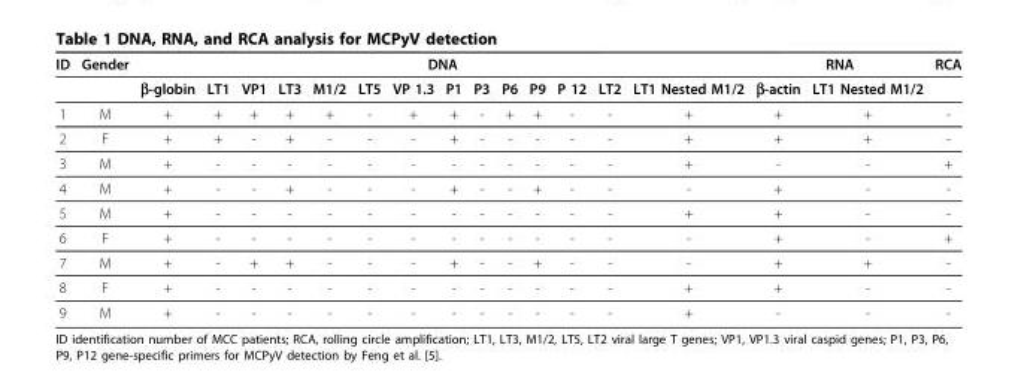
<table><thead><tr><td rowspan="2">ID</td><td rowspan="2">Gender</td><td colspan="14">DNA</td><td colspan="2">RNA</td><td rowspan="2">RCA</td></tr><tr><td>β-globin</td><td>LT1</td><td>VP1</td><td>LT3</td><td>M1/2</td><td>LT5</td><td>VP 1.3</td><td>P1</td><td>P3</td><td>P6</td><td>P9</td><td>P 12</td><td>LT2</td><td>LT1 Nested M1/2</td><td>β-actin</td><td>LT1 Nested M1/2</td></tr></thead><tbody><tr><td>1</td><td>M</td><td>+</td><td>+</td><td>+</td><td>+</td><td>+</td><td>-</td><td>+</td><td>+</td><td>-</td><td>+</td><td>+</td><td>-</td><td>-</td><td>+</td><td>+</td><td>+</td><td>-</td></tr><tr><td>2</td><td>F</td><td>+</td><td>+</td><td>-</td><td>+</td><td>-</td><td>-</td><td>-</td><td>+</td><td>-</td><td>-</td><td>-</td><td>-</td><td>-</td><td>+</td><td>+</td><td>+</td><td>-</td></tr><tr><td>3</td><td>M</td><td>+</td><td>-</td><td>-</td><td>-</td><td>-</td><td>-</td><td>-</td><td>-</td><td>-</td><td>-</td><td>-</td><td>-</td><td>-</td><td>+</td><td>-</td><td>-</td><td>+</td></tr><tr><td>4</td><td>M</td><td>+</td><td>-</td><td>-</td><td>+</td><td>-</td><td>-</td><td>-</td><td>+</td><td>-</td><td>-</td><td>+</td><td>-</td><td>-</td><td>-</td><td>+</td><td>-</td><td>-</td></tr><tr><td>5</td><td>M</td><td>+</td><td>-</td><td>-</td><td>-</td><td>-</td><td>-</td><td>-</td><td>-</td><td>-</td><td>-</td><td>-</td><td>-</td><td>-</td><td>+</td><td>+</td><td>-</td><td>-</td></tr><tr><td>6</td><td>F</td><td>+</td><td>-</td><td>-</td><td>-</td><td>-</td><td>-</td><td>-</td><td>-</td><td>-</td><td>-</td><td>-</td><td>-</td><td>-</td><td>-</td><td>+</td><td>-</td><td>+</td></tr><tr><td>7</td><td>M</td><td>+</td><td>-</td><td>+</td><td>+</td><td>-</td><td>-</td><td>-</td><td>+</td><td>-</td><td>-</td><td>+</td><td>-</td><td>-</td><td>-</td><td>+</td><td>+</td><td>-</td></tr><tr><td>8</td><td>F</td><td>+</td><td>-</td><td>-</td><td>-</td><td>-</td><td>-</td><td>-</td><td>-</td><td>-</td><td>-</td><td>-</td><td>-</td><td>-</td><td>+</td><td>+</td><td>-</td><td>-</td></tr><tr><td>9</td><td>M</td><td>+</td><td>-</td><td>-</td><td>-</td><td>-</td><td>-</td><td>-</td><td>-</td><td>-</td><td>-</td><td>-</td><td>-</td><td>-</td><td>+</td><td>-</td><td>-</td><td>-</td></tr></tbody></table>